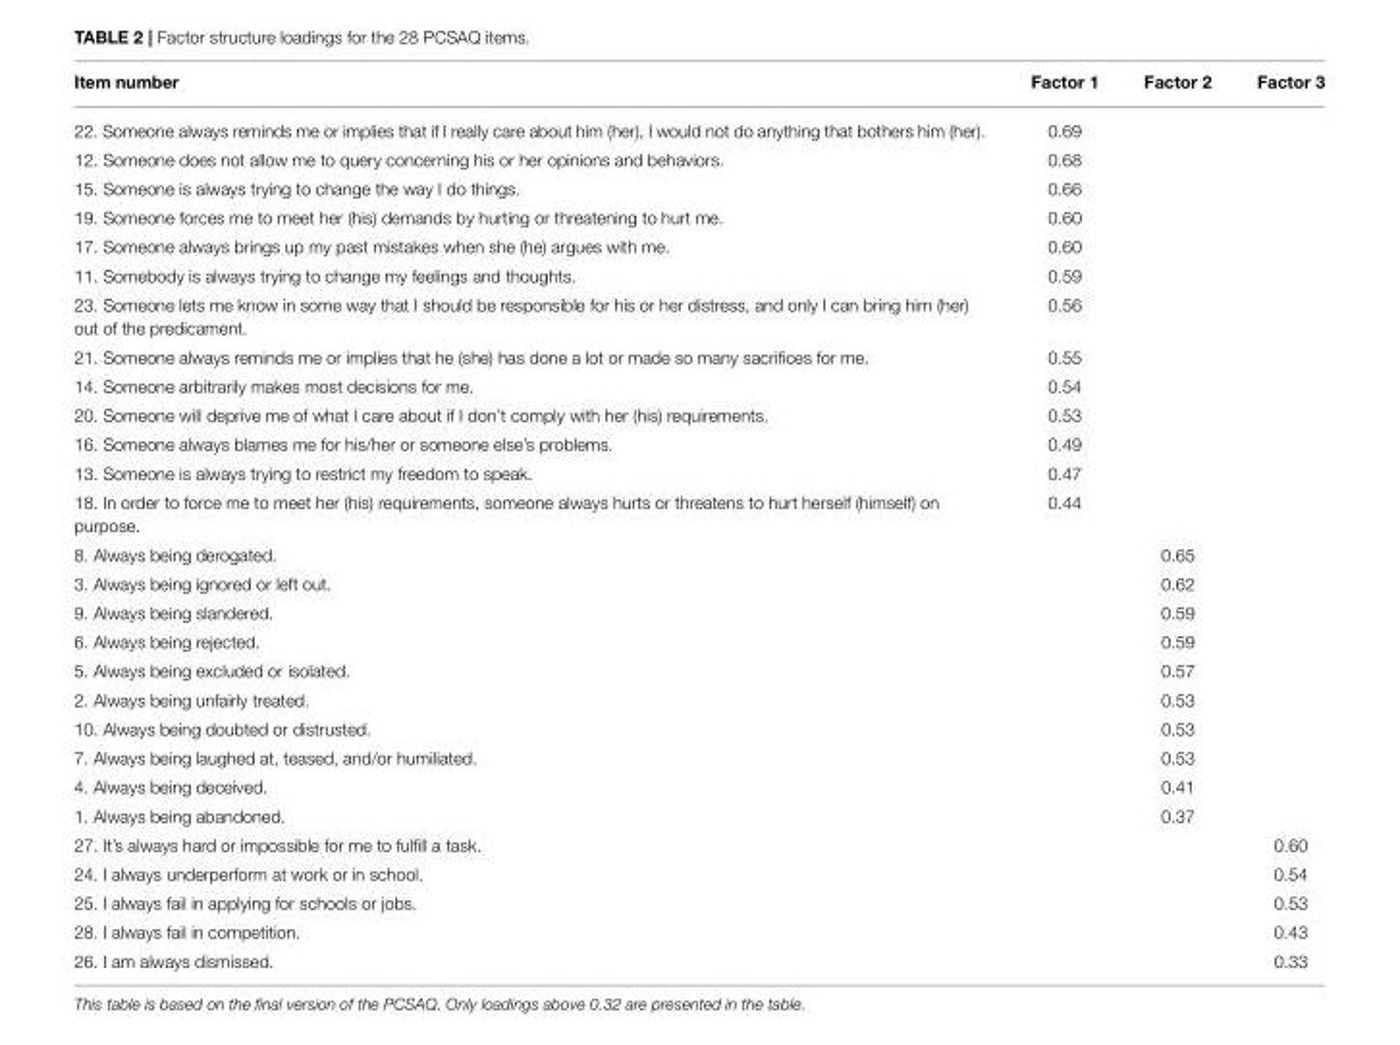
<table><thead><tr><td>Item number</td><td>Factor 1</td><td>Factor 2</td><td>Factor 3</td></tr></thead><tbody><tr><td>22. Someone always reminds me or implies that if I really care about him (her), I would not do anything that bothers him (her).</td><td>0.69</td><td></td><td></td></tr><tr><td>12. Someone does not allow me to query concerning his or her opinions and behaviors.</td><td>0.68</td><td></td><td></td></tr><tr><td>15. Someone is always trying to change the way I do things.</td><td>0.66</td><td></td><td></td></tr><tr><td>19. Someone forces me to meet her (his) demands by hurting or threatening to hurt me.</td><td>0.60</td><td></td><td></td></tr><tr><td>17. Someone always brings up my past mistakes when she (he) argues with me.</td><td>0.60</td><td></td><td></td></tr><tr><td>11. Somebody is always trying to change my feelings and thoughts.</td><td>0.59</td><td></td><td></td></tr><tr><td>23. Someone lets me know in some way that I should be responsible for his or her distress, and only I can bring him (her) out of the predicament.</td><td>0.56</td><td></td><td></td></tr><tr><td>21. Someone always reminds me or implies that he (she) has done a lot or made so many sacrifices for me.</td><td>0.55</td><td></td><td></td></tr><tr><td>14. Someone arbitrarily makes most decisions for me.</td><td>0.54</td><td></td><td></td></tr><tr><td>20. Someone will deprive me of what I care about if I don’t comply with her (his) requirements.</td><td>0.53</td><td></td><td></td></tr><tr><td>16. Someone always blames me for his/her or someone else’s problems.</td><td>0.49</td><td></td><td></td></tr><tr><td>13. Someone is always trying to restrict my freedom to speak.</td><td>0.47</td><td></td><td></td></tr><tr><td>18. In order to force me to meet her (his) requirements, someone always hurts or threatens to hurt herself (himself) on purpose.</td><td>0.44</td><td></td><td></td></tr><tr><td>8. Always being derogated.</td><td></td><td>0.65</td><td></td></tr><tr><td>3. Always being ignored or left out.</td><td></td><td>0.62</td><td></td></tr><tr><td>9. Always being slandered.</td><td></td><td>0.59</td><td></td></tr><tr><td>6. Always being rejected.</td><td></td><td>0.59</td><td></td></tr><tr><td>5. Always being excluded or isolated.</td><td></td><td>0.57</td><td></td></tr><tr><td>2. Always being unfairly treated.</td><td></td><td>0.53</td><td></td></tr><tr><td>10. Always being doubted or distrusted.</td><td></td><td>0.53</td><td></td></tr><tr><td>7. Always being laughed at, teased, and/or humiliated.</td><td></td><td>0.53</td><td></td></tr><tr><td>4. Always being deceived.</td><td></td><td>0.41</td><td></td></tr><tr><td>1. Always being abandoned.</td><td></td><td>0.37</td><td></td></tr><tr><td>27. It’s always hard or impossible for me to fulfill a task.</td><td></td><td></td><td>0.60</td></tr><tr><td>24. I always underperform at work or in school.</td><td></td><td></td><td>0.54</td></tr><tr><td>25. I always fail in applying for schools or jobs.</td><td></td><td></td><td>0.53</td></tr><tr><td>28. I always fail in competition.</td><td></td><td></td><td>0.43</td></tr><tr><td>26. I am always dismissed.</td><td></td><td></td><td>0.33</td></tr></tbody></table>